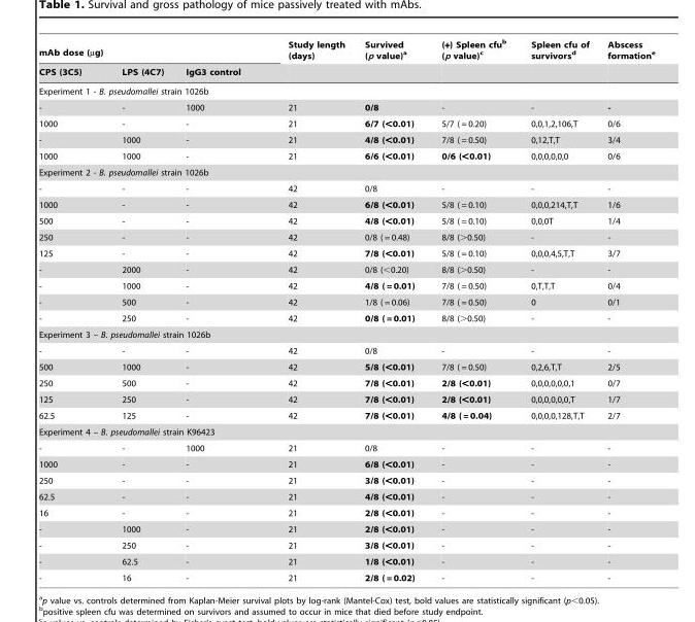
<table><thead><tr><td colspan="3">mAb dose (µg)</td><td rowspan="2">Study length (days)</td><td rowspan="2">Survived (p value)<sup>a</sup></td><td rowspan="2">(+) Spleen cfu<sup>b</sup> (p value)<sup>c</sup></td><td rowspan="2">Spleen cfu of survivors<sup>d</sup></td><td rowspan="2">Abscess formation<sup>e</sup></td></tr><tr><td>CPS (3C5)</td><td>LPS (4C7)</td><td>IgG3 control</td></tr></thead><tbody><tr><td colspan="8">Experiment 1 - B. pseudomallei strain 1026b</td></tr><tr><td>-</td><td>-</td><td>1000</td><td>21</td><td>0/8</td><td>-</td><td>-</td><td>-</td></tr><tr><td>1000</td><td>-</td><td>-</td><td>21</td><td>6/7 (&lt;0.01)</td><td>5/7 ( = 0.20)</td><td>0,0,1,2,106,T</td><td>0/6</td></tr><tr><td>-</td><td>1000</td><td>-</td><td>21</td><td>4/8 (&lt;0.01)</td><td>7/8 ( = 0.50)</td><td>0,12,T,T</td><td>3/4</td></tr><tr><td>1000</td><td>1000</td><td>-</td><td>21</td><td>6/6 (&lt;0.01)</td><td>0/6 (&lt;0.01)</td><td>0,0,0,0,0,0</td><td>0/6</td></tr><tr><td colspan="8">Experiment 2 - B. pseudomallei strain 1026b</td></tr><tr><td>-</td><td>-</td><td>-</td><td>42</td><td>0/8</td><td>-</td><td>-</td><td>-</td></tr><tr><td>1000</td><td>-</td><td>-</td><td>42</td><td>6/8 (&lt;0.01)</td><td>5/8 ( = 0.10)</td><td>0,0,0,214,T,T</td><td>1/6</td></tr><tr><td>500</td><td>-</td><td>-</td><td>42</td><td>4/8 (&lt;0.01)</td><td>5/8 ( = 0.10)</td><td>0,0,0T</td><td>1/4</td></tr><tr><td>250</td><td>-</td><td>-</td><td>42</td><td>0/8 ( = 0.48)</td><td>8/8 (&gt;0.50)</td><td>-</td><td>-</td></tr><tr><td>125</td><td>-</td><td>-</td><td>42</td><td>7/8 (&lt;0.01)</td><td>5/8 ( = 0.10)</td><td>0,0,0,4,5,T,T</td><td>3/7</td></tr><tr><td>-</td><td>2000</td><td>-</td><td>42</td><td>0/8 (&lt;0.20)</td><td>8/8 (&gt;0.50)</td><td>-</td><td>-</td></tr><tr><td>-</td><td>1000</td><td>-</td><td>42</td><td>4/8 ( = 0.01)</td><td>7/8 ( = 0.50)</td><td>0,T,T,T</td><td>0/4</td></tr><tr><td>-</td><td>500</td><td>-</td><td>42</td><td>1/8 ( = 0.06)</td><td>7/8 ( = 0.50)</td><td>0</td><td>0/1</td></tr><tr><td>-</td><td>250</td><td>-</td><td>42</td><td>0/8 ( = 0.01)</td><td>8/8 (&gt;0.50)</td><td>-</td><td>-</td></tr><tr><td colspan="8">Experiment 3 – B. pseudomallei strain 1026b</td></tr><tr><td>-</td><td>-</td><td>-</td><td>42</td><td>0/8</td><td>-</td><td>-</td><td>-</td></tr><tr><td>500</td><td>1000</td><td>-</td><td>42</td><td>5/8 (&lt;0.01)</td><td>7/8 ( = 0.50)</td><td>0,2,6,T,T</td><td>2/5</td></tr><tr><td>250</td><td>500</td><td>-</td><td>42</td><td>7/8 (&lt;0.01)</td><td>2/8 (&lt;0.01)</td><td>0,0,0,0,0,0,1</td><td>0/7</td></tr><tr><td>125</td><td>250</td><td>-</td><td>42</td><td>7/8 (&lt;0.01)</td><td>2/8 (&lt;0.01)</td><td>0,0,0,0,0,0,T</td><td>1/7</td></tr><tr><td>62.5</td><td>125</td><td>-</td><td>42</td><td>7/8 (&lt;0.01)</td><td>4/8 ( = 0.04)</td><td>0,0,0,0,128,T,T</td><td>2/7</td></tr><tr><td colspan="8">Experiment 4 – B. pseudomallei strain K96423</td></tr><tr><td>-</td><td>-</td><td>1000</td><td>21</td><td>0/8</td><td>-</td><td>-</td><td>-</td></tr><tr><td>1000</td><td>-</td><td>-</td><td>21</td><td>6/8 (&lt;0.01)</td><td>-</td><td>-</td><td>-</td></tr><tr><td>250</td><td>-</td><td>-</td><td>21</td><td>3/8 (&lt;0.01)</td><td>-</td><td>-</td><td>-</td></tr><tr><td>62.5</td><td>-</td><td>-</td><td>21</td><td>4/8 (&lt;0.01)</td><td>-</td><td>-</td><td>-</td></tr><tr><td>16</td><td>-</td><td>-</td><td>21</td><td>2/8 (&lt;0.01)</td><td>-</td><td>-</td><td>-</td></tr><tr><td>-</td><td>1000</td><td>-</td><td>21</td><td>2/8 (&lt;0.01)</td><td>-</td><td>-</td><td>-</td></tr><tr><td>-</td><td>250</td><td>-</td><td>21</td><td>3/8 (&lt;0.01)</td><td>-</td><td>-</td><td>-</td></tr><tr><td>-</td><td>62.5</td><td>-</td><td>21</td><td>1/8 (&lt;0.01)</td><td>-</td><td>-</td><td>-</td></tr><tr><td>-</td><td>16</td><td>-</td><td>21</td><td>2/8 ( = 0.02)</td><td>-</td><td>-</td><td>-</td></tr></tbody></table>